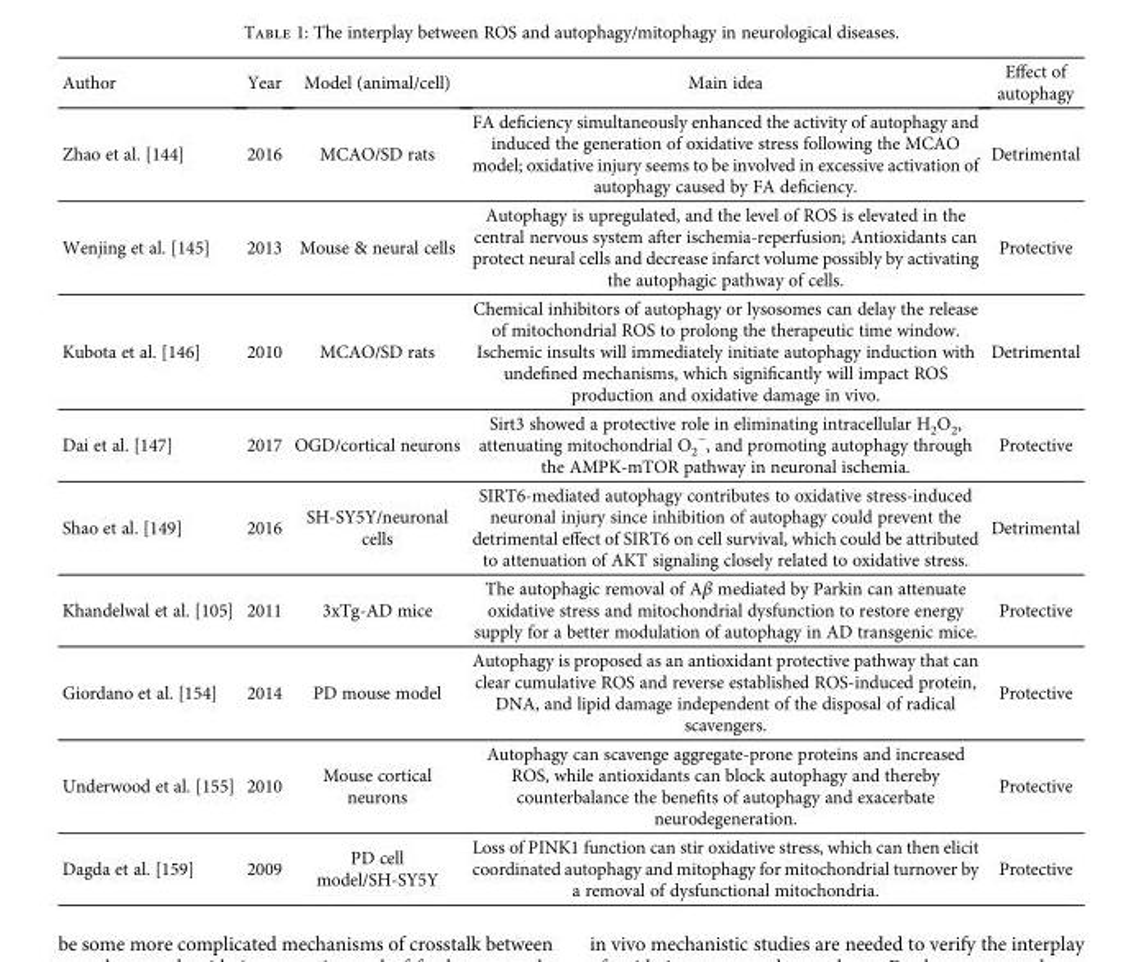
<table><thead><tr><td>Author</td><td>Year</td><td>Model (animal/cell)</td><td>Main idea</td><td>Effect of autophagy</td></tr></thead><tbody><tr><td>Zhao et al. [144]</td><td>2016</td><td>MCAO/SD rats</td><td>FA deficiency simultaneously enhanced the activity of autophagy and induced the generation of oxidative stress following the MCAO model; oxidative injury seems to be involved in excessive activation of autophagy caused by FA deficiency.</td><td>Detrimental</td></tr><tr><td>Wenjing et al. [145]</td><td>2013</td><td>Mouse &amp; neural cells</td><td>Autophagy is upregulated, and the level of ROS is elevated in the central nervous system after ischemia-reperfusion; Antioxidants can protect neural cells and decrease infarct volume possibly by activating the autophagic pathway of cells.</td><td>Protective</td></tr><tr><td>Kubota et al. [146]</td><td>2010</td><td>MCAO/SD rats</td><td>Chemical inhibitors of autophagy or lysosomes can delay the release of mitochondrial ROS to prolong the therapeutic time window. Ischemic insults will immediately initiate autophagy induction with undefined mechanisms, which significantly will impact ROS production and oxidative damage in vivo.</td><td>Detrimental</td></tr><tr><td>Dai et al. [147]</td><td>2017</td><td>OGD/cortical neurons</td><td>Sirt3 showed a protective role in eliminating intracellular H<sub>2</sub>O<sub>2</sub>, attenuating mitochondrial O<sub>2</sub> <sup>−</sup>, and promoting autophagy through the AMPK-mTOR pathway in neuronal ischemia.</td><td>Protective</td></tr><tr><td>Shao et al. [149]</td><td>2016</td><td>SH-SY5Y/neuronal cells</td><td>SIRT6-mediated autophagy contributes to oxidative stress-induced neuronal injury since inhibition of autophagy could prevent the detrimental effect of SIRT6 on cell survival, which could be attributed to attenuation of AKT signaling closely related to oxidative stress.</td><td>Detrimental</td></tr><tr><td>Khandelwal et al. [105]</td><td>2011</td><td>3xTg-AD mice</td><td>The autophagic removal of Aβ mediated by Parkin can attenuate oxidative stress and mitochondrial dysfunction to restore energy supply for a better modulation of autophagy in AD transgenic mice.</td><td>Protective</td></tr><tr><td>Giordano et al. [154]</td><td>2014</td><td>PD mouse model</td><td>Autophagy is proposed as an antioxidant protective pathway that can clear cumulative ROS and reverse established ROS-induced protein, DNA, and lipid damage independent of the disposal of radical scavengers.</td><td>Protective</td></tr><tr><td>Underwood et al. [155]</td><td>2010</td><td>Mouse cortical neurons</td><td>Autophagy can scavenge aggregate-prone proteins and increased ROS, while antioxidants can block autophagy and thereby counterbalance the benefits of autophagy and exacerbate neurodegeneration.</td><td>Protective</td></tr><tr><td>Dagda et al. [159]</td><td>2009</td><td>PD cell model/SH-SY5Y</td><td>Loss of PINK1 function can stir oxidative stress, which can then elicit coordinated autophagy and mitophagy for mitochondrial turnover by a removal of dysfunctional mitochondria.</td><td>Protective</td></tr></tbody></table>